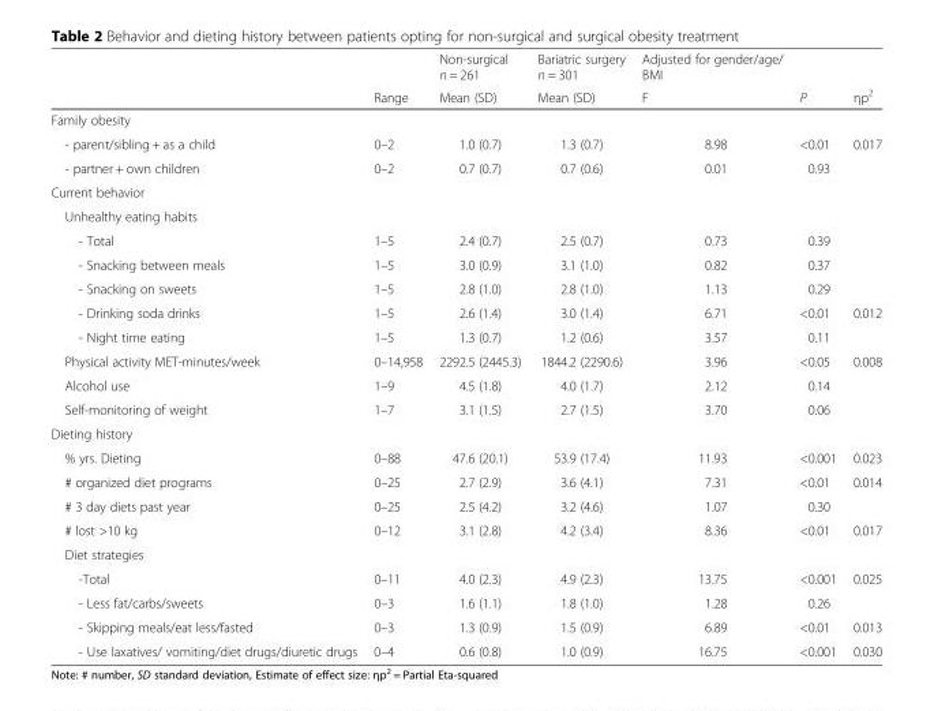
<table><thead><tr><td rowspan="2"></td><td rowspan="2">Range</td><td rowspan="2">Non-surgical n = 261 Mean (SD)</td><td rowspan="2">Bariatric surgery n = 301 Mean (SD)</td><td rowspan="2">Adjusted for gender/age/ BMI F</td><td rowspan="2">P</td><td rowspan="2">ηp<sup>2</sup></td></tr><tr></tr></thead><tbody><tr><td colspan="7">Family obesity</td></tr><tr><td>- parent/sibling + as a child</td><td>0–2</td><td>1.0 (0.7)</td><td>1.3 (0.7)</td><td>8.98</td><td>&lt;0.01</td><td>0.017</td></tr><tr><td>- partner + own children</td><td>0–2</td><td>0.7 (0.7)</td><td>0.7 (0.6)</td><td>0.01</td><td>0.93</td><td></td></tr><tr><td colspan="7">Current behavior</td></tr><tr><td colspan="7">Unhealthy eating habits</td></tr><tr><td>- Total</td><td>1–5</td><td>2.4 (0.7)</td><td>2.5 (0.7)</td><td>0.73</td><td>0.39</td><td></td></tr><tr><td>- Snacking between meals</td><td>1–5</td><td>3.0 (0.9)</td><td>3.1 (1.0)</td><td>0.82</td><td>0.37</td><td></td></tr><tr><td>- Snacking on sweets</td><td>1–5</td><td>2.8 (1.0)</td><td>2.8 (1.0)</td><td>1.13</td><td>0.29</td><td></td></tr><tr><td>- Drinking soda drinks</td><td>1–5</td><td>2.6 (1.4)</td><td>3.0 (1.4)</td><td>6.71</td><td>&lt;0.01</td><td>0.012</td></tr><tr><td>- Night time eating</td><td>1–5</td><td>1.3 (0.7)</td><td>1.2 (0.6)</td><td>3.57</td><td>0.11</td><td></td></tr><tr><td>Physical activity MET-minutes/week</td><td>0–14,958</td><td>2292.5 (2445.3)</td><td>1844.2 (2290.6)</td><td>3.96</td><td>&lt;0.05</td><td>0.008</td></tr><tr><td>Alcohol use</td><td>1–9</td><td>4.5 (1.8)</td><td>4.0 (1.7)</td><td>2.12</td><td>0.14</td><td></td></tr><tr><td>Self-monitoring of weight</td><td>1–7</td><td>3.1 (1.5)</td><td>2.7 (1.5)</td><td>3.70</td><td>0.06</td><td></td></tr><tr><td colspan="7">Dieting history</td></tr><tr><td>% yrs. Dieting</td><td>0–88</td><td>47.6 (20.1)</td><td>53.9 (17.4)</td><td>11.93</td><td>&lt;0.001</td><td>0.023</td></tr><tr><td># organized diet programs</td><td>0–25</td><td>2.7 (2.9)</td><td>3.6 (4.1)</td><td>7.31</td><td>&lt;0.01</td><td>0.014</td></tr><tr><td># 3 day diets past year</td><td>0–25</td><td>2.5 (4.2)</td><td>3.2 (4.6)</td><td>1.07</td><td>0.30</td><td></td></tr><tr><td># lost &gt;10 kg</td><td>0–12</td><td>3.1 (2.8)</td><td>4.2 (3.4)</td><td>8.36</td><td>&lt;0.01</td><td>0.017</td></tr><tr><td colspan="7">Diet strategies</td></tr><tr><td>-Total</td><td>0–11</td><td>4.0 (2.3)</td><td>4.9 (2.3)</td><td>13.75</td><td>&lt;0.001</td><td>0.025</td></tr><tr><td>- Less fat/carbs/sweets</td><td>0–3</td><td>1.6 (1.1)</td><td>1.8 (1.0)</td><td>1.28</td><td>0.26</td><td></td></tr><tr><td>- Skipping meals/eat less/fasted</td><td>0–3</td><td>1.3 (0.9)</td><td>1.5 (0.9)</td><td>6.89</td><td>&lt;0.01</td><td>0.013</td></tr><tr><td>- Use laxatives/ vomiting/diet drugs/diuretic drugs</td><td>0–4</td><td>0.6 (0.8)</td><td>1.0 (0.9)</td><td>16.75</td><td>&lt;0.001</td><td>0.030</td></tr></tbody></table>